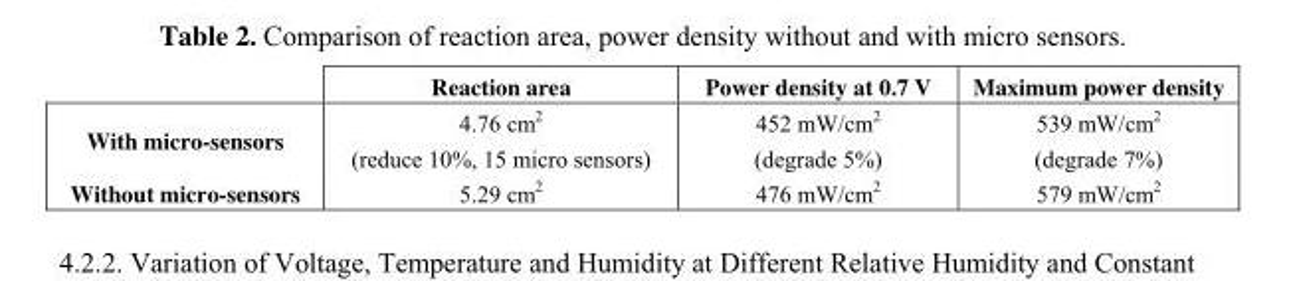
<table><thead><tr><td></td><td>Reaction area</td><td>Power density at 0.7 V</td><td>Maximum power density</td></tr></thead><tbody><tr><td>With micro-sensors</td><td>4.76 cm<sup>2</sup> (reduce 10%, 15 micro sensors)</td><td>452 mW/cm<sup>2</sup> (degrade 5%)</td><td>539 mW/cm<sup>2</sup> (degrade 7%)</td></tr><tr><td>Without micro-sensors</td><td>5.29 cm<sup>2</sup></td><td>476 mW/cm<sup>2</sup></td><td>579 mW/cm<sup>2</sup></td></tr></tbody></table>